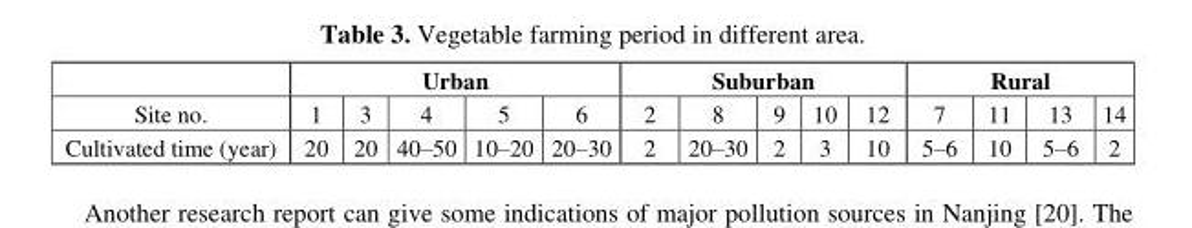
<table><thead><tr><td rowspan="2">Site no.</td><td colspan="5">Urban</td><td colspan="5">Suburban</td><td colspan="4">Rural</td></tr><tr><td>1</td><td>3</td><td>4</td><td>5</td><td>6</td><td>2</td><td>8</td><td>9</td><td>10</td><td>12</td><td>7</td><td>11</td><td>13</td><td>14</td></tr></thead><tbody><tr><td>Cultivated time (year)</td><td>20</td><td>20</td><td>40–50</td><td>10–20</td><td>20–30</td><td>2</td><td>20–30</td><td>2</td><td>3</td><td>10</td><td>5–6</td><td>10</td><td>5–6</td><td>2</td></tr></tbody></table>